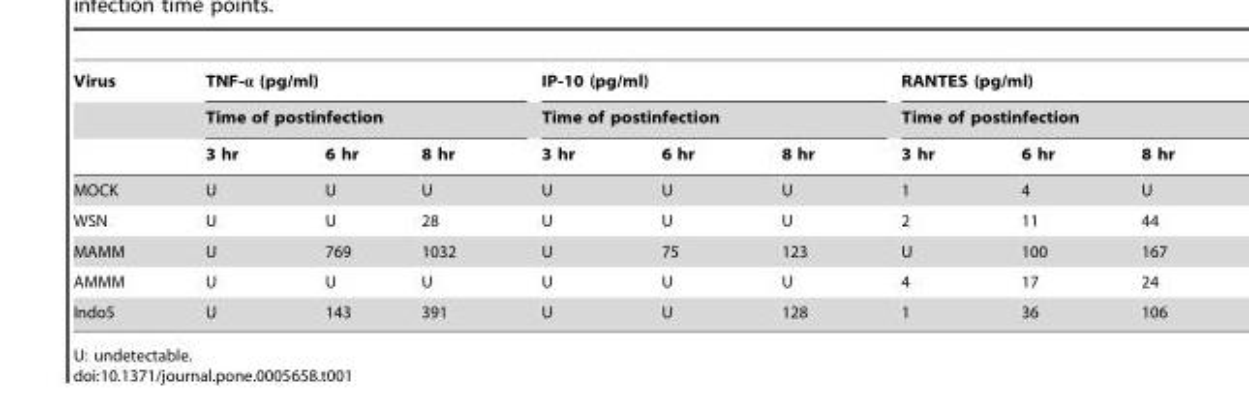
<table><thead><tr><td rowspan="3">Virus</td><td rowspan="2" colspan="3">TNF-α (pg/ml) Time of postinfection</td><td rowspan="2" colspan="3">IP-10 (pg/ml) Time of postinfection</td><td rowspan="2" colspan="3">RANTES (pg/ml) Time of postinfection</td></tr><tr></tr><tr><td>3 hr</td><td>6 hr</td><td>8 hr</td><td>3 hr</td><td>6 hr</td><td>8 hr</td><td>3 hr</td><td>6 hr</td><td>8 hr</td></tr></thead><tbody><tr><td>MOCK</td><td>U</td><td>U</td><td>U</td><td>U</td><td>U</td><td>U</td><td>1</td><td>4</td><td>U</td></tr><tr><td>WSN</td><td>U</td><td>U</td><td>28</td><td>U</td><td>U</td><td>U</td><td>2</td><td>11</td><td>44</td></tr><tr><td>MAMM</td><td>U</td><td>769</td><td>1032</td><td>U</td><td>75</td><td>123</td><td>U</td><td>100</td><td>167</td></tr><tr><td>AMMM</td><td>U</td><td>U</td><td>U</td><td>U</td><td>U</td><td>U</td><td>4</td><td>17</td><td>24</td></tr><tr><td>Indo5</td><td>U</td><td>143</td><td>391</td><td>U</td><td>U</td><td>128</td><td>1</td><td>36</td><td>106</td></tr></tbody></table>